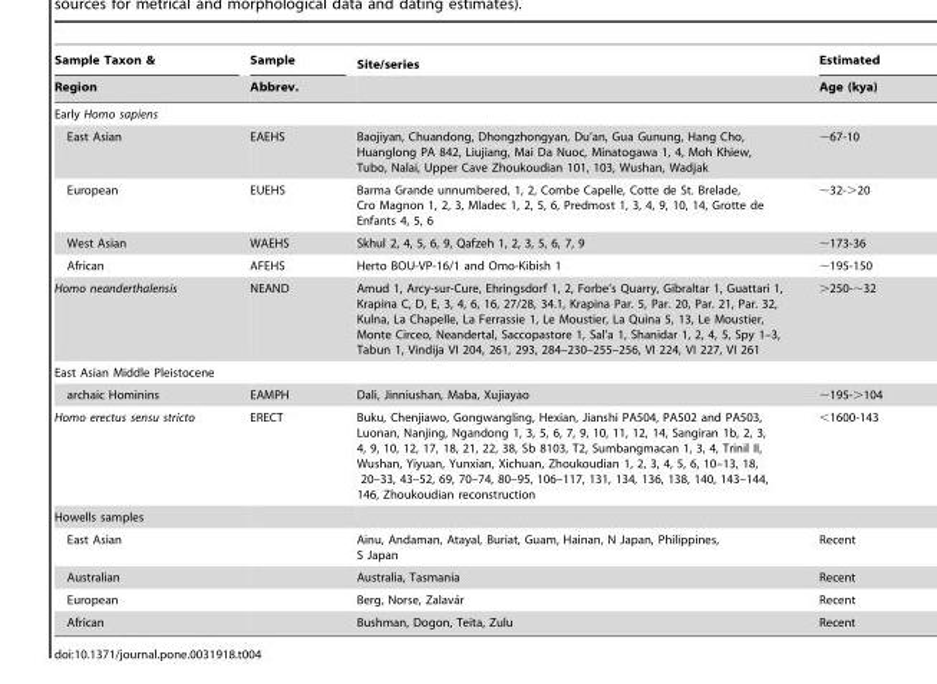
<table><thead><tr><td rowspan="2">Sample Taxon &amp; Region</td><td rowspan="2">Sample Abbrev.</td><td rowspan="2">Site/series</td><td rowspan="2">Estimated Age (kya)</td></tr><tr></tr></thead><tbody><tr><td colspan="4">Early Homo sapiens</td></tr><tr><td>East Asian</td><td>EAEHS</td><td>Baojiyan, Chuandong, Dhongzhongyan, Du’an, Gua Gunung, Hang Cho, Huanglong PA 842, Liujiang, Mai Da Nuoc, Minatogawa 1, 4, Moh Khiew, Tubo, Nalai, Upper Cave Zhoukoudian 101, 103, Wushan, Wadjak</td><td>∼67-10</td></tr><tr><td>European</td><td>EUEHS</td><td>Barma Grande unnumbered, 1, 2, Combe Capelle, Cotte de St. Brelade, Cro Magnon 1, 2, 3, Mladec 1, 2, 5, 6, Predmost 1, 3, 4, 9, 10, 14, Grotte de Enfants 4, 5, 6</td><td>∼32-&gt;20</td></tr><tr><td>West Asian</td><td>WAEHS</td><td>Skhul 2, 4, 5, 6, 9, Qafzeh 1, 2, 3, 5, 6, 7, 9</td><td>∼173-36</td></tr><tr><td>African</td><td>AFEHS</td><td>Herto BOU-VP-16/1 and Omo-Kibish 1</td><td>∼195-150</td></tr><tr><td>Homo neanderthalensis</td><td>NEAND</td><td>Amud 1, Arcy-sur-Cure, Ehringsdorf 1, 2, Forbe’s Quarry, Gibraltar 1, Guattari 1, Krapina C, D, E, 3, 4, 6, 16, 27/28, 34.1, Krapina Par. 5, Par. 20, Par. 21, Par. 32, Kulna, La Chapelle, La Ferrassie 1, Le Moustier, La Quina 5, 13, Le Moustier, Monte Circeo, Neandertal, Saccopastore 1, Sal’a 1, Shanidar 1, 2, 4, 5, Spy 1–3, Tabun 1, Vindija VI 204, 261, 293, 284–230–255–256, VI 224, VI 227, VI 261</td><td>&gt;250-∼32</td></tr><tr><td colspan="4">East Asian Middle Pleistocene</td></tr><tr><td>archaic Hominins</td><td>EAMPH</td><td>Dali, Jinniushan, Maba, Xujiayao</td><td>∼195-&gt;104</td></tr><tr><td>Homo erectus sensu stricto</td><td>ERECT</td><td>Buku, Chenjiawo, Gongwangling, Hexian, Jianshi PA504, PA502 and PA503, Luonan, Nanjing, Ngandong 1, 3, 5, 6, 7, 9, 10, 11, 12, 14, Sangiran 1b, 2, 3, 4, 9, 10, 12, 17, 18, 21, 22, 38, Sb 8103, T2, Sumbangmacan 1, 3, 4, Trinil II, Wushan, Yiyuan, Yunxian, Xichuan, Zhoukoudian 1, 2, 3, 4, 5, 6, 10–13, 18, 20–33, 43–52, 69, 70–74, 80–95, 106–117, 131, 134, 136, 138, 140, 143–144, 146, Zhoukoudian reconstruction</td><td>&lt;1600-143</td></tr><tr><td colspan="4">Howells samples</td></tr><tr><td>East Asian</td><td></td><td>Ainu, Andaman, Atayal, Buriat, Guam, Hainan, N Japan, Philippines, S Japan</td><td>Recent</td></tr><tr><td>Australian</td><td></td><td>Australia, Tasmania</td><td>Recent</td></tr><tr><td>European</td><td></td><td>Berg, Norse, Zalava´r</td><td>Recent</td></tr><tr><td>African</td><td></td><td>Bushman, Dogon, Teita, Zulu</td><td>Recent</td></tr></tbody></table>